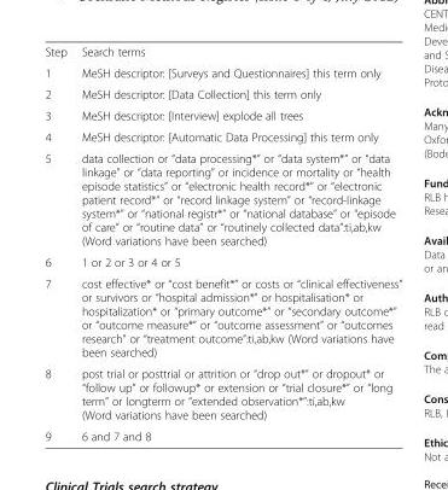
<table><tbody><tr><td>Step</td><td>Search terms</td></tr><tr><td>1</td><td>MeSH descriptor: [Surveys and Questionnaires] this term only</td></tr><tr><td>2</td><td>MeSH descriptor: [Data Collection] this term only</td></tr><tr><td>3</td><td>MeSH descriptor: [Interview] explode all trees</td></tr><tr><td>4</td><td>MeSH descriptor: [Automatic Data Processing] this term only</td></tr><tr><td>5</td><td>data collection or “data processing*” or “data system*” or “data linkage” or “data reporting” or incidence or mortality or “health episode statistics” or “electronic health record*” or “electronic patient record*” or “record linkage system” or “record-linkage system*” or “national registr*” or “national database” or “episode of care” or “routine data” or “routinely collected data”:ti,ab,kw (Word variations have been searched)</td></tr><tr><td>6</td><td>1 or 2 or 3 or 4 or 5</td></tr><tr><td>7</td><td>cost effective* or “cost benefit*” or costs or “clinical effectiveness” or survivors or “hospital admission*” or hospitalisation* or hospitalization* or “primary outcome*” or “secondary outcome*” or “outcome measure*” or “outcome assessment” or “outcomes research” or “treatment outcome”:ti,ab,kw (Word variations have been searched)</td></tr><tr><td>8</td><td>post trial or posttrial or attrition or “drop out*” or dropout* or “follow up” or followup* or extension or “trial closure*” or “long term” or longterm or “extended observation*”:ti,ab,kw (Word variations have been searched)</td></tr><tr><td>9</td><td>6 and 7 and 8</td></tr></tbody></table>